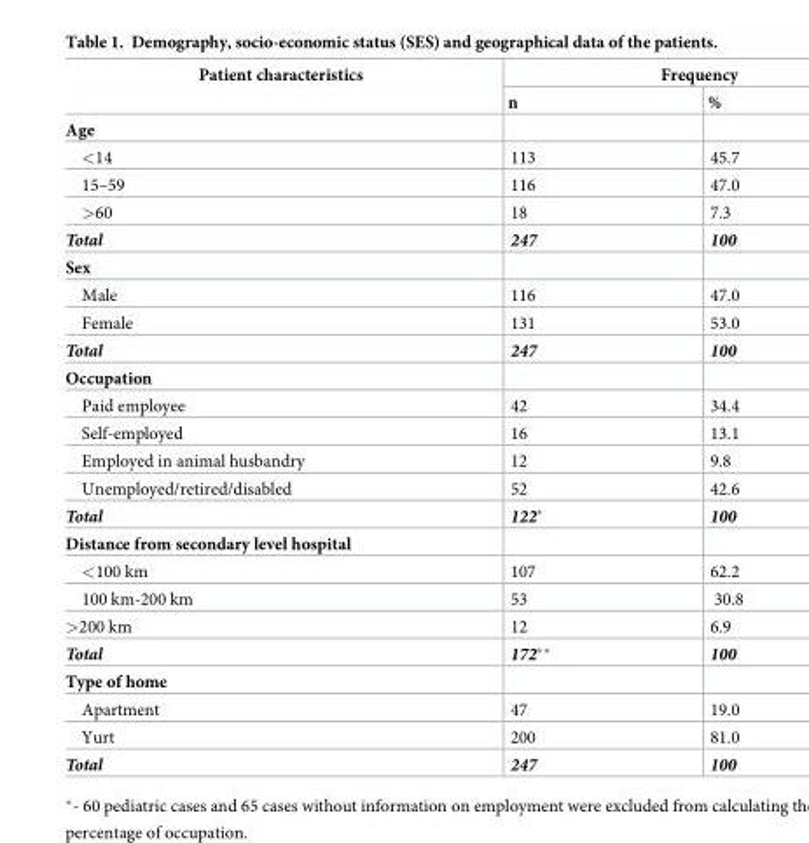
<table><thead><tr><td rowspan="2">Patient characteristics</td><td colspan="2">Frequency</td></tr><tr><td>n</td><td>%</td></tr></thead><tbody><tr><td colspan="3">Age</td></tr><tr><td>&lt;14</td><td>113</td><td>45.7</td></tr><tr><td>15–59</td><td>116</td><td>47.0</td></tr><tr><td>&gt;60</td><td>18</td><td>7.3</td></tr><tr><td>Total</td><td>247</td><td>100</td></tr><tr><td colspan="3">Sex</td></tr><tr><td>Male</td><td>116</td><td>47.0</td></tr><tr><td>Female</td><td>131</td><td>53.0</td></tr><tr><td>Total</td><td>247</td><td>100</td></tr><tr><td colspan="3">Occupation</td></tr><tr><td>Paid employee</td><td>42</td><td>34.4</td></tr><tr><td>Self-employed</td><td>16</td><td>13.1</td></tr><tr><td>Employed in animal husbandry</td><td>12</td><td>9.8</td></tr><tr><td>Unemployed/retired/disabled</td><td>52</td><td>42.6</td></tr><tr><td>Total</td><td>122*</td><td>100</td></tr><tr><td colspan="3">Distance from secondary level hospital</td></tr><tr><td>&lt;100 km</td><td>107</td><td>62.2</td></tr><tr><td>100 km-200 km</td><td>53</td><td>30.8</td></tr><tr><td>&gt;200 km</td><td>12</td><td>6.9</td></tr><tr><td>Total</td><td>172**</td><td>100</td></tr><tr><td colspan="3">Type of home</td></tr><tr><td>Apartment</td><td>47</td><td>19.0</td></tr><tr><td>Yurt</td><td>200</td><td>81.0</td></tr><tr><td>Total</td><td>247</td><td>100</td></tr></tbody></table>